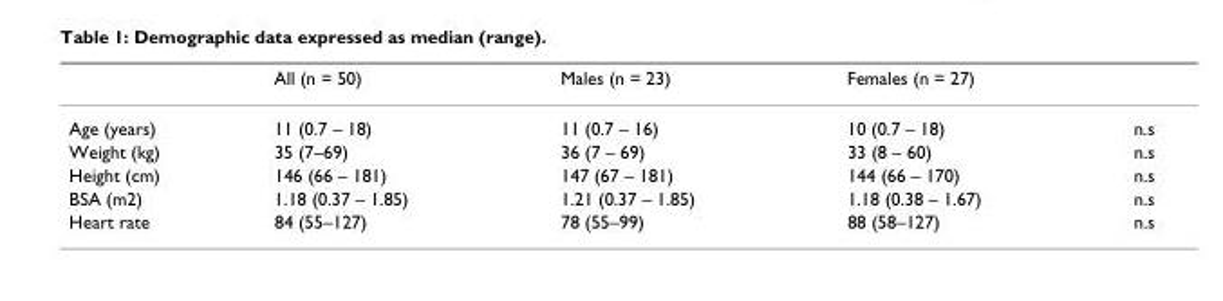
<table><thead><tr><td></td><td>All (n = 50)</td><td>Males (n = 23)</td><td>Females (n = 27)</td><td></td></tr></thead><tbody><tr><td>Age (years)</td><td>11 (0.7 – 18)</td><td>11 (0.7 – 16)</td><td>10 (0.7 – 18)</td><td>n.s</td></tr><tr><td>Weight (kg)</td><td>35 (7–69)</td><td>36 (7 – 69)</td><td>33 (8 – 60)</td><td>n.s</td></tr><tr><td>Height (cm)</td><td>146 (66 – 181)</td><td>147 (67 – 181)</td><td>144 (66 – 170)</td><td>n.s</td></tr><tr><td>BSA (m2)</td><td>1.18 (0.37 – 1.85)</td><td>1.21 (0.37 – 1.85)</td><td>1.18 (0.38 – 1.67)</td><td>n.s</td></tr><tr><td>Heart rate</td><td>84 (55–127)</td><td>78 (55–99)</td><td>88 (58–127)</td><td>n.s</td></tr></tbody></table>